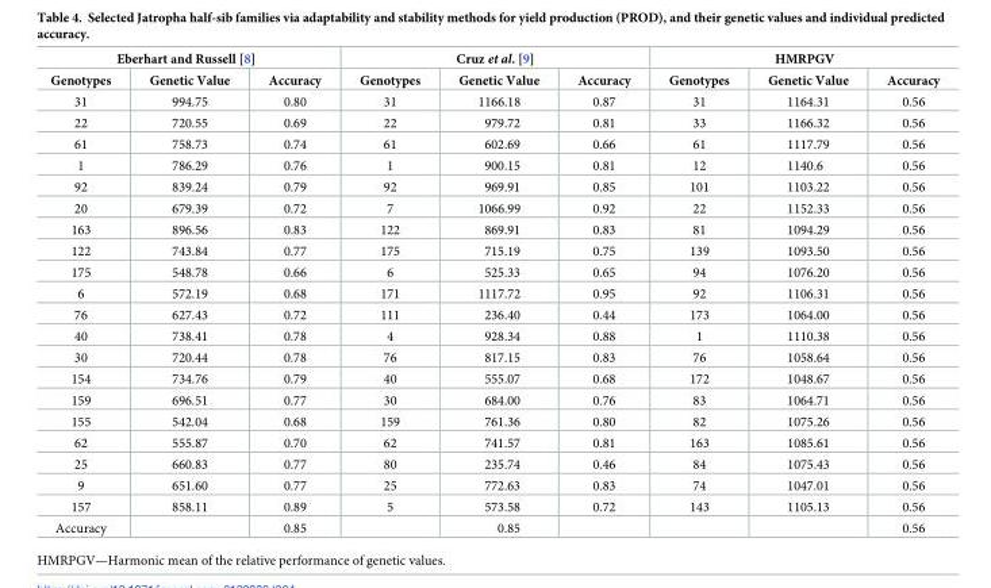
<table><thead><tr><td colspan="3">Eberhart and Russell [8]</td><td colspan="3">Cruz et al. [9]</td><td colspan="3">HMRPGV</td></tr><tr><td>Genotypes</td><td>Genetic Value</td><td>Accuracy</td><td>Genotypes</td><td>Genetic Value</td><td>Accuracy</td><td>Genotypes</td><td>Genetic Value</td><td>Accuracy</td></tr></thead><tbody><tr><td>31</td><td>994.75</td><td>0.80</td><td>31</td><td>1166.18</td><td>0.87</td><td>31</td><td>1164.31</td><td>0.56</td></tr><tr><td>22</td><td>720.55</td><td>0.69</td><td>22</td><td>979.72</td><td>0.81</td><td>33</td><td>1166.32</td><td>0.56</td></tr><tr><td>61</td><td>758.73</td><td>0.74</td><td>61</td><td>602.69</td><td>0.66</td><td>61</td><td>1117.79</td><td>0.56</td></tr><tr><td>1</td><td>786.29</td><td>0.76</td><td>1</td><td>900.15</td><td>0.81</td><td>12</td><td>1140.6</td><td>0.56</td></tr><tr><td>92</td><td>839.24</td><td>0.79</td><td>92</td><td>969.91</td><td>0.85</td><td>101</td><td>1103.22</td><td>0.56</td></tr><tr><td>20</td><td>679.39</td><td>0.72</td><td>7</td><td>1066.99</td><td>0.92</td><td>22</td><td>1152.33</td><td>0.56</td></tr><tr><td>163</td><td>896.56</td><td>0.83</td><td>122</td><td>869.91</td><td>0.83</td><td>81</td><td>1094.29</td><td>0.56</td></tr><tr><td>122</td><td>743.84</td><td>0.77</td><td>175</td><td>715.19</td><td>0.75</td><td>139</td><td>1093.50</td><td>0.56</td></tr><tr><td>175</td><td>548.78</td><td>0.66</td><td>6</td><td>525.33</td><td>0.65</td><td>94</td><td>1076.20</td><td>0.56</td></tr><tr><td>6</td><td>572.19</td><td>0.68</td><td>171</td><td>1117.72</td><td>0.95</td><td>92</td><td>1106.31</td><td>0.56</td></tr><tr><td>76</td><td>627.43</td><td>0.72</td><td>111</td><td>236.40</td><td>0.44</td><td>173</td><td>1064.00</td><td>0.56</td></tr><tr><td>40</td><td>738.41</td><td>0.78</td><td>4</td><td>928.34</td><td>0.88</td><td>1</td><td>1110.38</td><td>0.56</td></tr><tr><td>30</td><td>720.44</td><td>0.78</td><td>76</td><td>817.15</td><td>0.83</td><td>76</td><td>1058.64</td><td>0.56</td></tr><tr><td>154</td><td>734.76</td><td>0.79</td><td>40</td><td>555.07</td><td>0.68</td><td>172</td><td>1048.67</td><td>0.56</td></tr><tr><td>159</td><td>696.51</td><td>0.77</td><td>30</td><td>684.00</td><td>0.76</td><td>83</td><td>1064.71</td><td>0.56</td></tr><tr><td>155</td><td>542.04</td><td>0.68</td><td>159</td><td>761.36</td><td>0.80</td><td>82</td><td>1075.26</td><td>0.56</td></tr><tr><td>62</td><td>555.87</td><td>0.70</td><td>62</td><td>741.57</td><td>0.81</td><td>163</td><td>1085.61</td><td>0.56</td></tr><tr><td>25</td><td>660.83</td><td>0.77</td><td>80</td><td>235.74</td><td>0.46</td><td>84</td><td>1075.43</td><td>0.56</td></tr><tr><td>9</td><td>651.60</td><td>0.77</td><td>25</td><td>772.63</td><td>0.83</td><td>74</td><td>1047.01</td><td>0.56</td></tr><tr><td>157</td><td>858.11</td><td>0.89</td><td>5</td><td>573.58</td><td>0.72</td><td>143</td><td>1105.13</td><td>0.56</td></tr><tr><td>Accuracy</td><td></td><td>0.85</td><td></td><td>0.85</td><td></td><td></td><td></td><td>0.56</td></tr></tbody></table>